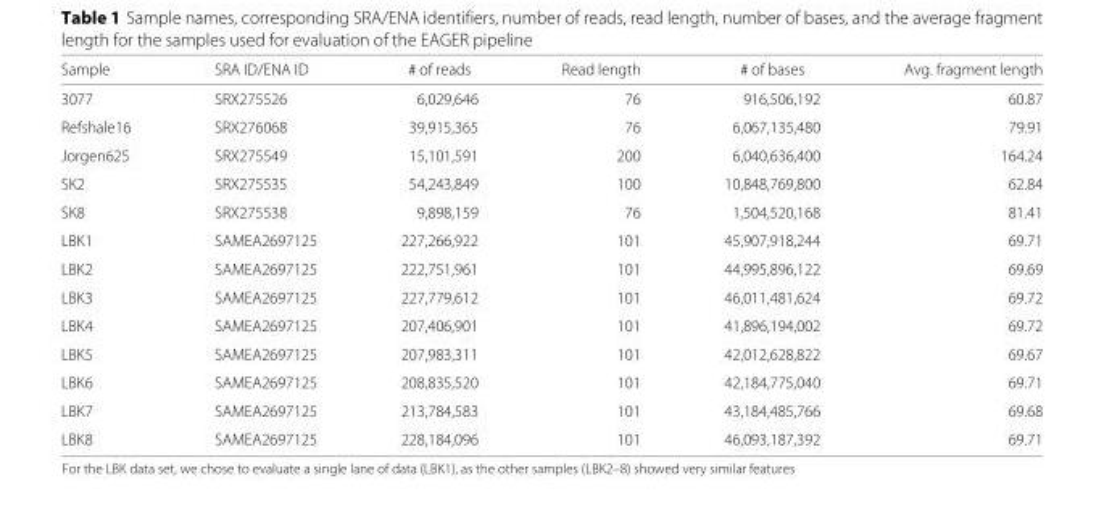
<table><thead><tr><td>Sample</td><td>SRA ID/ENA ID</td><td># of reads</td><td>Read length</td><td># of bases</td><td>Avg. fragment length</td></tr></thead><tbody><tr><td>3077</td><td>SRX275526</td><td>6,029,646</td><td>76</td><td>916,506,192</td><td>60.87</td></tr><tr><td>Refshale16</td><td>SRX276068</td><td>39,915,365</td><td>76</td><td>6,067,135,480</td><td>79.91</td></tr><tr><td>Jorgen625</td><td>SRX275549</td><td>15,101,591</td><td>200</td><td>6,040,636,400</td><td>164.24</td></tr><tr><td>SK2</td><td>SRX275535</td><td>54,243,849</td><td>100</td><td>10,848,769,800</td><td>62.84</td></tr><tr><td>SK8</td><td>SRX275538</td><td>9,898,159</td><td>76</td><td>1,504,520,168</td><td>81.41</td></tr><tr><td>LBK1</td><td>SAMEA2697125</td><td>227,266,922</td><td>101</td><td>45,907,918,244</td><td>69.71</td></tr><tr><td>LBK2</td><td>SAMEA2697125</td><td>222,751,961</td><td>101</td><td>44,995,896,122</td><td>69.69</td></tr><tr><td>LBK3</td><td>SAMEA2697125</td><td>227,779,612</td><td>101</td><td>46,011,481,624</td><td>69.72</td></tr><tr><td>LBK4</td><td>SAMEA2697125</td><td>207,406,901</td><td>101</td><td>41,896,194,002</td><td>69.72</td></tr><tr><td>LBK5</td><td>SAMEA2697125</td><td>207,983,311</td><td>101</td><td>42,012,628,822</td><td>69.67</td></tr><tr><td>LBK6</td><td>SAMEA2697125</td><td>208,835,520</td><td>101</td><td>42,184,775,040</td><td>69.71</td></tr><tr><td>LBK7</td><td>SAMEA2697125</td><td>213,784,583</td><td>101</td><td>43,184,485,766</td><td>69.68</td></tr><tr><td>LBK8</td><td>SAMEA2697125</td><td>228,184,096</td><td>101</td><td>46,093,187,392</td><td>69.71</td></tr></tbody></table>